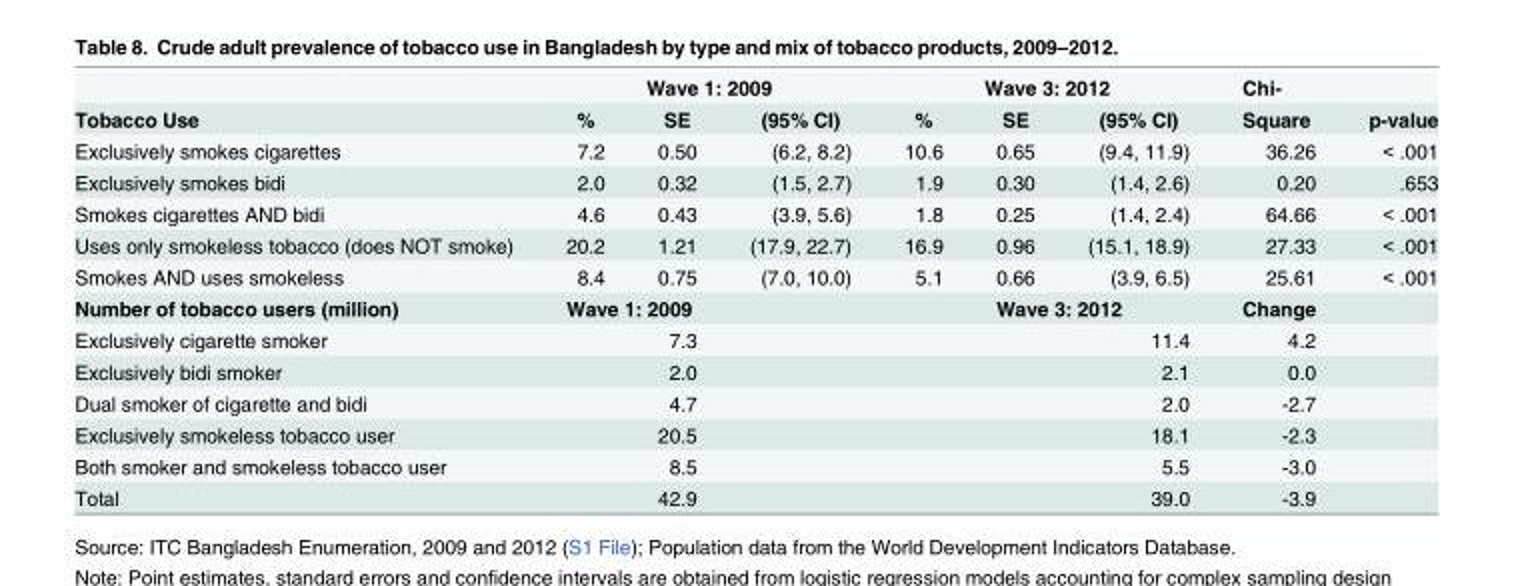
<table><thead><tr><td rowspan="2">Tobacco Use</td><td colspan="3">Wave 1: 2009</td><td colspan="3">Wave 3: 2012</td><td rowspan="2">Chi- Square</td><td rowspan="2">p-value</td></tr><tr><td>%</td><td>SE</td><td>(95% CI)</td><td>%</td><td>SE</td><td>(95% CI)</td></tr></thead><tbody><tr><td>Exclusively smokes cigarettes</td><td>7.2</td><td>0.50</td><td>(6.2, 8.2)</td><td>10.6</td><td>0.65</td><td>(9.4, 11.9)</td><td>36.26</td><td>&lt; .001</td></tr><tr><td>Exclusively smokes bidi</td><td>2.0</td><td>0.32</td><td>(1.5, 2.7)</td><td>1.9</td><td>0.30</td><td>(1.4, 2.6)</td><td>0.20</td><td>.653</td></tr><tr><td>Smokes cigarettes AND bidi</td><td>4.6</td><td>0.43</td><td>(3.9, 5.6)</td><td>1.8</td><td>0.25</td><td>(1.4, 2.4)</td><td>64.66</td><td>&lt; .001</td></tr><tr><td>Uses only smokeless tobacco (does NOT smoke)</td><td>20.2</td><td>1.21</td><td>(17.9, 22.7)</td><td>16.9</td><td>0.96</td><td>(15.1, 18.9)</td><td>27.33</td><td>&lt; .001</td></tr><tr><td>Smokes AND uses smokeless</td><td>8.4</td><td>0.75</td><td>(7.0, 10.0)</td><td>5.1</td><td>0.66</td><td>(3.9, 6.5)</td><td>25.61</td><td>&lt; .001</td></tr><tr><td>Number of tobacco users (million)</td><td colspan="4">Wave 1: 2009</td><td colspan="2">Wave 3: 2012</td><td>Change</td><td></td></tr><tr><td>Exclusively cigarette smoker</td><td></td><td>7.3</td><td colspan="2"></td><td colspan="2">11.4</td><td>4.2</td><td></td></tr><tr><td>Exclusively bidi smoker</td><td></td><td>2.0</td><td colspan="2"></td><td colspan="2">2.1</td><td>0.0</td><td></td></tr><tr><td>Dual smoker of cigarette and bidi</td><td></td><td>4.7</td><td colspan="2"></td><td colspan="2">2.0</td><td>-2.7</td><td></td></tr><tr><td>Exclusively smokeless tobacco user</td><td></td><td>20.5</td><td colspan="2"></td><td colspan="2">18.1</td><td>-2.3</td><td></td></tr><tr><td>Both smoker and smokeless tobacco user</td><td></td><td>8.5</td><td colspan="2"></td><td colspan="2">5.5</td><td>-3.0</td><td></td></tr><tr><td>Total</td><td></td><td>42.9</td><td colspan="2"></td><td colspan="2">39.0</td><td>-3.9</td><td></td></tr></tbody></table>